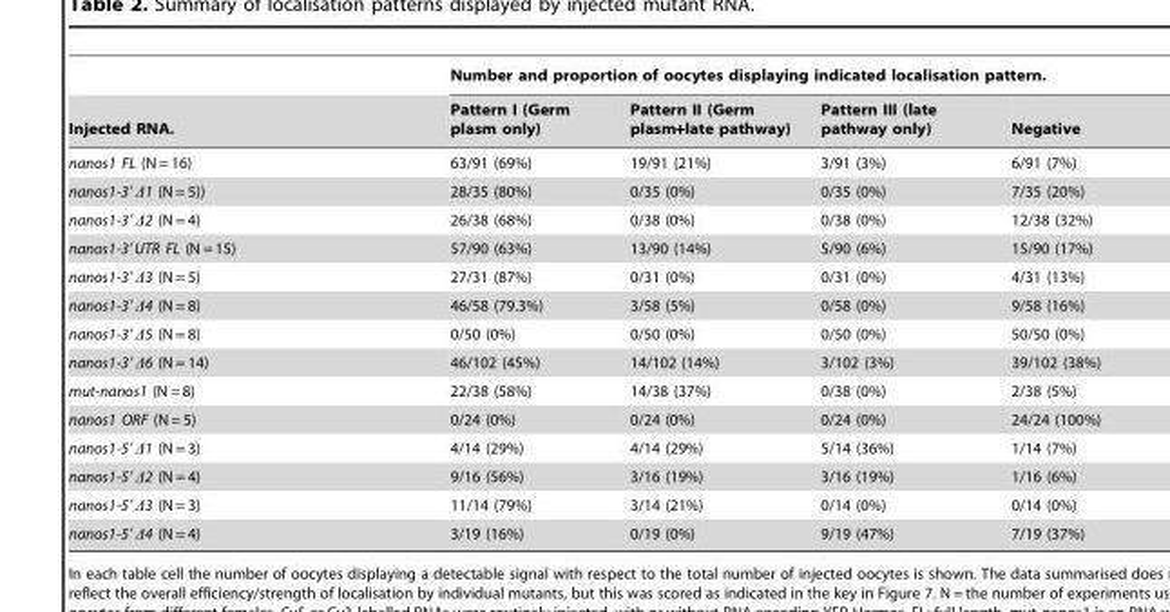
<table><thead><tr><td rowspan="2">Injected RNA.</td><td colspan="4">Number and proportion of oocytes displaying indicated localisation pattern.</td></tr><tr><td>Pattern I (Germ plasm only)</td><td>Pattern II (Germ plasm+late pathway)</td><td>Pattern III (late pathway only)</td><td>Negative</td></tr></thead><tbody><tr><td>nanos1 FL (N = 16)</td><td>63/91 (69%)</td><td>19/91 (21%)</td><td>3/91 (3%)</td><td>6/91 (7%)</td></tr><tr><td>nanos1-3′Δ1 (N = 5))</td><td>28/35 (80%)</td><td>0/35 (0%)</td><td>0/35 (0%)</td><td>7/35 (20%)</td></tr><tr><td>nanos1-3′Δ2 (N = 4)</td><td>26/38 (68%)</td><td>0/38 (0%)</td><td>0/38 (0%)</td><td>12/38 (32%)</td></tr><tr><td>nanos1-3′UTR FL (N = 15)</td><td>57/90 (63%)</td><td>13/90 (14%)</td><td>5/90 (6%)</td><td>15/90 (17%)</td></tr><tr><td>nanos1-3′Δ3 (N = 5)</td><td>27/31 (87%)</td><td>0/31 (0%)</td><td>0/31 (0%)</td><td>4/31 (13%)</td></tr><tr><td>nanos1-3′Δ4 (N = 8)</td><td>46/58 (79.3%)</td><td>3/58 (5%)</td><td>0/58 (0%)</td><td>9/58 (16%)</td></tr><tr><td>nanos1-3′Δ5 (N = 8)</td><td>0/50 (0%)</td><td>0/50 (0%)</td><td>0/50 (0%)</td><td>50/50 (0%)</td></tr><tr><td>nanos1-3′Δ6 (N = 14)</td><td>46/102 (45%)</td><td>14/102 (14%)</td><td>3/102 (3%)</td><td>39/102 (38%)</td></tr><tr><td>mut-nanos1 (N = 8)</td><td>22/38 (58%)</td><td>14/38 (37%)</td><td>0/38 (0%)</td><td>2/38 (5%)</td></tr><tr><td>nanos1 ORF (N = 5)</td><td>0/24 (0%)</td><td>0/24 (0%)</td><td>0/24 (0%)</td><td>24/24 (100%)</td></tr><tr><td>nanos1-5′Δ1 (N = 3)</td><td>4/14 (29%)</td><td>4/14 (29%)</td><td>5/14 (36%)</td><td>1/14 (7%)</td></tr><tr><td>nanos1-5′Δ2 (N = 4)</td><td>9/16 (56%)</td><td>3/16 (19%)</td><td>3/16 (19%)</td><td>1/16 (6%)</td></tr><tr><td>nanos1-5′Δ3 (N = 3)</td><td>11/14 (79%)</td><td>3/14 (21%)</td><td>0/14 (0%)</td><td>0/14 (0%)</td></tr><tr><td>nanos1-5′Δ4 (N = 4)</td><td>3/19 (16%)</td><td>0/19 (0%)</td><td>9/19 (47%)</td><td>7/19 (37%)</td></tr></tbody></table>